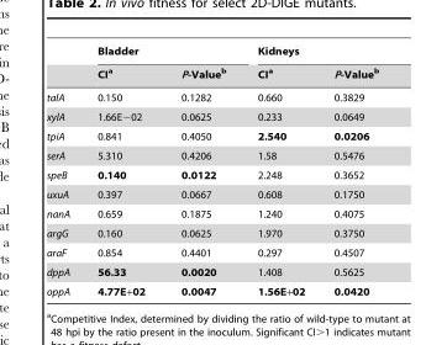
<table><thead><tr><td rowspan="2"></td><td colspan="2">Bladder</td><td colspan="2">Kidneys</td></tr><tr><td>CI<sup>a</sup></td><td>P-Value<sup>b</sup></td><td>CI<sup>a</sup></td><td>P-Value<sup>b</sup></td></tr></thead><tbody><tr><td>talA</td><td>0.150</td><td>0.1282</td><td>0.660</td><td>0.3829</td></tr><tr><td>xylA</td><td>1.66E−02</td><td>0.0625</td><td>0.233</td><td>0.0649</td></tr><tr><td>tpiA</td><td>0.841</td><td>0.4050</td><td>2.540</td><td>0.0206</td></tr><tr><td>serA</td><td>5.310</td><td>0.4206</td><td>1.58</td><td>0.5476</td></tr><tr><td>speB</td><td>0.140</td><td>0.0122</td><td>2.248</td><td>0.3652</td></tr><tr><td>uxuA</td><td>0.397</td><td>0.0667</td><td>0.608</td><td>0.1750</td></tr><tr><td>nanA</td><td>0.659</td><td>0.1875</td><td>1.240</td><td>0.4075</td></tr><tr><td>argG</td><td>0.160</td><td>0.0625</td><td>1.970</td><td>0.3750</td></tr><tr><td>araF</td><td>0.854</td><td>0.4401</td><td>0.297</td><td>0.4507</td></tr><tr><td>dppA</td><td>56.33</td><td>0.0020</td><td>1.408</td><td>0.5625</td></tr><tr><td>oppA</td><td>4.77E+02</td><td>0.0047</td><td>1.56E+02</td><td>0.0420</td></tr></tbody></table>